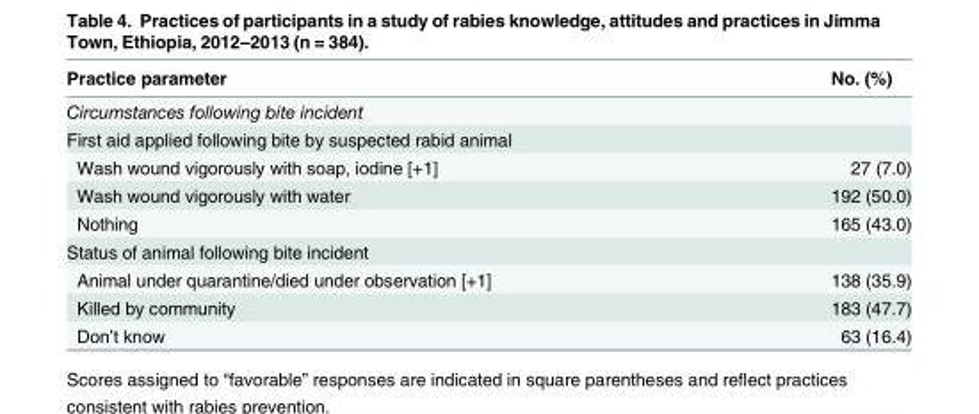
<table><thead><tr><td>Practice parameter</td><td>No. (%)</td></tr></thead><tbody><tr><td colspan="2">Circumstances following bite incident</td></tr><tr><td colspan="2">First aid applied following bite by suspected rabid animal</td></tr><tr><td>Wash wound vigorously with soap, iodine [+1]</td><td>27 (7.0)</td></tr><tr><td>Wash wound vigorously with water</td><td>192 (50.0)</td></tr><tr><td>Nothing</td><td>165 (43.0)</td></tr><tr><td colspan="2">Status of animal following bite incident</td></tr><tr><td>Animal under quarantine/died under observation [+1]</td><td>138 (35.9)</td></tr><tr><td>Killed by community</td><td>183 (47.7)</td></tr><tr><td>Don’t know</td><td>63 (16.4)</td></tr></tbody></table>